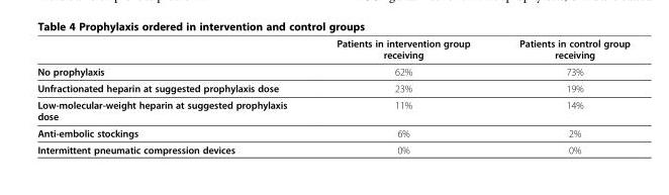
<table><thead><tr><td></td><td>Patients in intervention group receiving</td><td>Patients in control group receiving</td></tr></thead><tbody><tr><td>No prophylaxis</td><td>62%</td><td>73%</td></tr><tr><td>Unfractionated heparin at suggested prophylaxis dose</td><td>23%</td><td>19%</td></tr><tr><td>Low-molecular-weight heparin at suggested prophylaxis dose</td><td>11%</td><td>14%</td></tr><tr><td>Anti-embolic stockings</td><td>6%</td><td>2%</td></tr><tr><td>Intermittent pneumatic compression devices</td><td>0%</td><td>0%</td></tr></tbody></table>